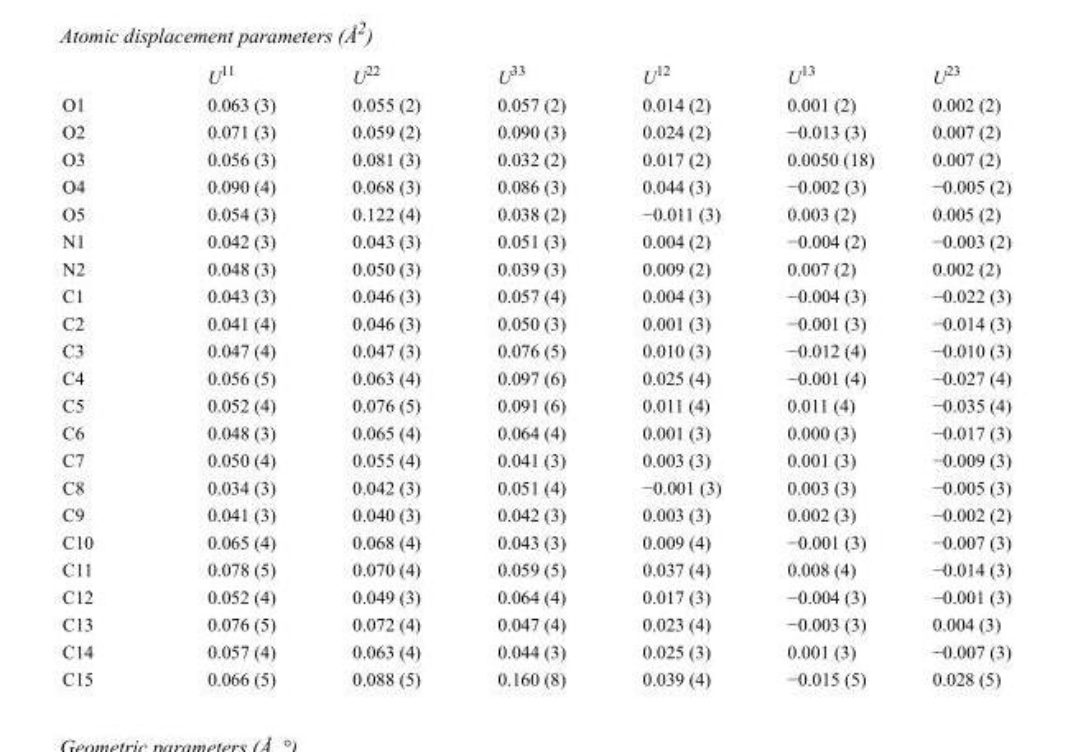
<table><thead><tr><td></td><td>U<sup>11</sup></td><td>U<sup>22</sup></td><td>U<sup>33</sup></td><td>U<sup>12</sup></td><td>U<sup>13</sup></td><td>U<sup>23</sup></td></tr></thead><tbody><tr><td>O1</td><td>0.063 (3)</td><td>0.055 (2)</td><td>0.057 (2)</td><td>0.014 (2)</td><td>0.001 (2)</td><td>0.002 (2)</td></tr><tr><td>O2</td><td>0.071 (3)</td><td>0.059 (2)</td><td>0.090 (3)</td><td>0.024 (2)</td><td>−0.013 (3)</td><td>0.007 (2)</td></tr><tr><td>O3</td><td>0.056 (3)</td><td>0.081 (3)</td><td>0.032 (2)</td><td>0.017 (2)</td><td>0.0050 (18)</td><td>0.007 (2)</td></tr><tr><td>O4</td><td>0.090 (4)</td><td>0.068 (3)</td><td>0.086 (3)</td><td>0.044 (3)</td><td>−0.002 (3)</td><td>−0.005 (2)</td></tr><tr><td>O5</td><td>0.054 (3)</td><td>0.122 (4)</td><td>0.038 (2)</td><td>−0.011 (3)</td><td>0.003 (2)</td><td>0.005 (2)</td></tr><tr><td>N1</td><td>0.042 (3)</td><td>0.043 (3)</td><td>0.051 (3)</td><td>0.004 (2)</td><td>−0.004 (2)</td><td>−0.003 (2)</td></tr><tr><td>N2</td><td>0.048 (3)</td><td>0.050 (3)</td><td>0.039 (3)</td><td>0.009 (2)</td><td>0.007 (2)</td><td>0.002 (2)</td></tr><tr><td>C1</td><td>0.043 (3)</td><td>0.046 (3)</td><td>0.057 (4)</td><td>0.004 (3)</td><td>−0.004 (3)</td><td>−0.022 (3)</td></tr><tr><td>C2</td><td>0.041 (4)</td><td>0.046 (3)</td><td>0.050 (3)</td><td>0.001 (3)</td><td>−0.001 (3)</td><td>−0.014 (3)</td></tr><tr><td>C3</td><td>0.047 (4)</td><td>0.047 (3)</td><td>0.076 (5)</td><td>0.010 (3)</td><td>−0.012 (4)</td><td>−0.010 (3)</td></tr><tr><td>C4</td><td>0.056 (5)</td><td>0.063 (4)</td><td>0.097 (6)</td><td>0.025 (4)</td><td>−0.001 (4)</td><td>−0.027 (4)</td></tr><tr><td>C5</td><td>0.052 (4)</td><td>0.076 (5)</td><td>0.091 (6)</td><td>0.011 (4)</td><td>0.011 (4)</td><td>−0.035 (4)</td></tr><tr><td>C6</td><td>0.048 (3)</td><td>0.065 (4)</td><td>0.064 (4)</td><td>0.001 (3)</td><td>0.000 (3)</td><td>−0.017 (3)</td></tr><tr><td>C7</td><td>0.050 (4)</td><td>0.055 (4)</td><td>0.041 (3)</td><td>0.003 (3)</td><td>0.001 (3)</td><td>−0.009 (3)</td></tr><tr><td>C8</td><td>0.034 (3)</td><td>0.042 (3)</td><td>0.051 (4)</td><td>−0.001 (3)</td><td>0.003 (3)</td><td>−0.005 (3)</td></tr><tr><td>C9</td><td>0.041 (3)</td><td>0.040 (3)</td><td>0.042 (3)</td><td>0.003 (3)</td><td>0.002 (3)</td><td>−0.002 (2)</td></tr><tr><td>C10</td><td>0.065 (4)</td><td>0.068 (4)</td><td>0.043 (3)</td><td>0.009 (4)</td><td>−0.001 (3)</td><td>−0.007 (3)</td></tr><tr><td>C11</td><td>0.078 (5)</td><td>0.070 (4)</td><td>0.059 (5)</td><td>0.037 (4)</td><td>0.008 (4)</td><td>−0.014 (3)</td></tr><tr><td>C12</td><td>0.052 (4)</td><td>0.049 (3)</td><td>0.064 (4)</td><td>0.017 (3)</td><td>−0.004 (3)</td><td>−0.001 (3)</td></tr><tr><td>C13</td><td>0.076 (5)</td><td>0.072 (4)</td><td>0.047 (4)</td><td>0.023 (4)</td><td>−0.003 (3)</td><td>0.004 (3)</td></tr><tr><td>C14</td><td>0.057 (4)</td><td>0.063 (4)</td><td>0.044 (3)</td><td>0.025 (3)</td><td>0.001 (3)</td><td>−0.007 (3)</td></tr><tr><td>C15</td><td>0.066 (5)</td><td>0.088 (5)</td><td>0.160 (8)</td><td>0.039 (4)</td><td>−0.015 (5)</td><td>0.028 (5)</td></tr></tbody></table>